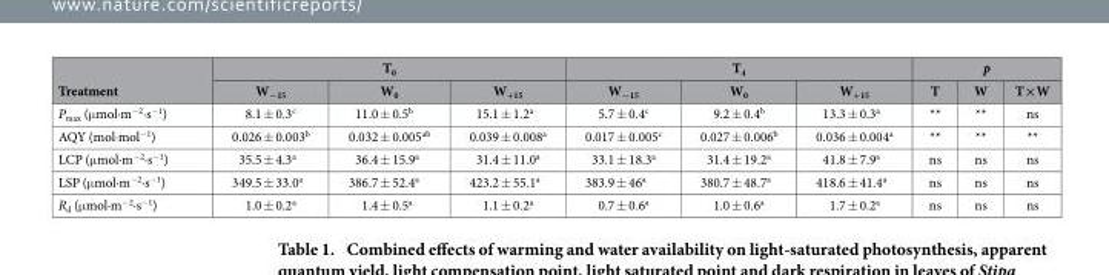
<table><thead><tr><td rowspan="2">Treatment</td><td colspan="3">T<sub>0</sub></td><td colspan="3">T<sub>4</sub></td><td colspan="3">p</td></tr><tr><td>W<sub>−15</sub></td><td>W<sub>0</sub></td><td>W<sub>+15</sub></td><td>W<sub>−15</sub></td><td>W<sub>0</sub></td><td>W<sub>+15</sub></td><td>T</td><td>W</td><td>T×W</td></tr></thead><tbody><tr><td>P<sub>max</sub> (μ mol·m<sup>−2</sup>·s<sup>−1</sup>)</td><td>8.1 ± 0.3<sup>c</sup></td><td>11.0 ± 0.5<sup>b</sup></td><td>15.1 ± 1.2<sup>a</sup></td><td>5.7 ± 0.4<sup>c</sup></td><td>9.2 ± 0.4<sup>b</sup></td><td>13.3 ± 0.3<sup>a</sup></td><td>**</td><td>**</td><td>ns</td></tr><tr><td>AQY (mol·mol<sup>−1</sup>)</td><td>0.026 ± 0.003<sup>b</sup></td><td>0.032 ± 0.005<sup>ab</sup></td><td>0.039 ± 0.008<sup>a</sup></td><td>0.017 ± 0.005<sup>c</sup></td><td>0.027 ± 0.006<sup>b</sup></td><td>0.036 ± 0.004<sup>a</sup></td><td>**</td><td>**</td><td>**</td></tr><tr><td>LCP (μ mol·m<sup>−2</sup>·s<sup>−1</sup>)</td><td>35.5 ± 4.3<sup>a</sup></td><td>36.4 ± 15.9<sup>a</sup></td><td>31.4 ± 11.0<sup>a</sup></td><td>33.1 ± 18.3<sup>a</sup></td><td>31.4 ± 19.2<sup>a</sup></td><td>41.8 ± 7.9<sup>a</sup></td><td>ns</td><td>ns</td><td>ns</td></tr><tr><td>LSP (μ mol·m<sup>−2</sup>·s<sup>−1</sup>)</td><td>349.5 ± 33.0<sup>a</sup></td><td>386.7 ± 52.4<sup>a</sup></td><td>423.2 ± 55.1<sup>a</sup></td><td>383.9 ± 46<sup>a</sup></td><td>380.7 ± 48.7<sup>a</sup></td><td>418.6 ± 41.4<sup>a</sup></td><td>ns</td><td>ns</td><td>ns</td></tr><tr><td>R<sub>d</sub> (μ mol·m<sup>−2</sup>·s<sup>−1</sup>)</td><td>1.0 ± 0.2<sup>a</sup></td><td>1.4 ± 0.5<sup>a</sup></td><td>1.1 ± 0.2<sup>a</sup></td><td>0.7 ± 0.6<sup>a</sup></td><td>1.0 ± 0.6<sup>a</sup></td><td>1.7 ± 0.2<sup>a</sup></td><td>ns</td><td>ns</td><td>ns</td></tr></tbody></table>